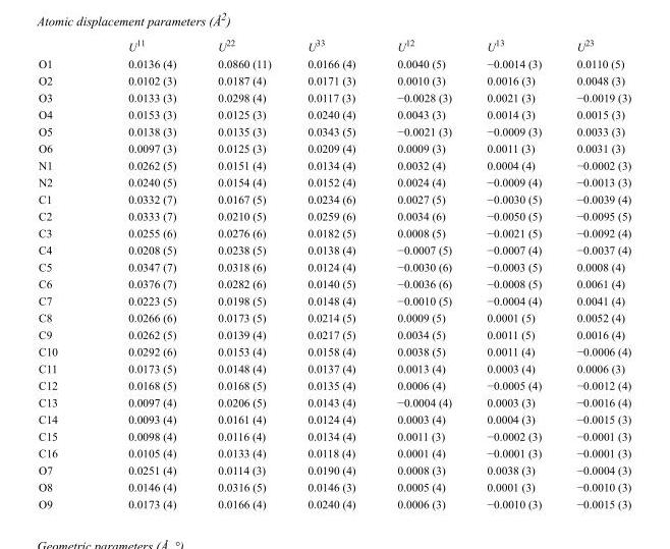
<table><thead><tr><td></td><td>U<sup>11</sup></td><td>U<sup>22</sup></td><td>U<sup>33</sup></td><td>U<sup>12</sup></td><td>U<sup>13</sup></td><td>U<sup>23</sup></td></tr></thead><tbody><tr><td>O1</td><td>0.0136 (4)</td><td>0.0860 (11)</td><td>0.0166 (4)</td><td>0.0040 (5)</td><td>−0.0014 (3)</td><td>0.0110 (5)</td></tr><tr><td>O2</td><td>0.0102 (3)</td><td>0.0187 (4)</td><td>0.0171 (3)</td><td>0.0010 (3)</td><td>0.0016 (3)</td><td>0.0048 (3)</td></tr><tr><td>O3</td><td>0.0133 (3)</td><td>0.0298 (4)</td><td>0.0117 (3)</td><td>−0.0028 (3)</td><td>0.0021 (3)</td><td>−0.0019 (3)</td></tr><tr><td>O4</td><td>0.0153 (3)</td><td>0.0125 (3)</td><td>0.0240 (4)</td><td>0.0043 (3)</td><td>0.0014 (3)</td><td>0.0015 (3)</td></tr><tr><td>O5</td><td>0.0138 (3)</td><td>0.0135 (3)</td><td>0.0343 (5)</td><td>−0.0021 (3)</td><td>−0.0009 (3)</td><td>0.0033 (3)</td></tr><tr><td>O6</td><td>0.0097 (3)</td><td>0.0125 (3)</td><td>0.0209 (4)</td><td>0.0009 (3)</td><td>0.0011 (3)</td><td>0.0031 (3)</td></tr><tr><td>N1</td><td>0.0262 (5)</td><td>0.0151 (4)</td><td>0.0134 (4)</td><td>0.0032 (4)</td><td>0.0004 (4)</td><td>−0.0002 (3)</td></tr><tr><td>N2</td><td>0.0240 (5)</td><td>0.0154 (4)</td><td>0.0152 (4)</td><td>0.0024 (4)</td><td>−0.0009 (4)</td><td>−0.0013 (3)</td></tr><tr><td>C1</td><td>0.0332 (7)</td><td>0.0167 (5)</td><td>0.0234 (6)</td><td>0.0027 (5)</td><td>−0.0030 (5)</td><td>−0.0039 (4)</td></tr><tr><td>C2</td><td>0.0333 (7)</td><td>0.0210 (5)</td><td>0.0259 (6)</td><td>0.0034 (6)</td><td>−0.0050 (5)</td><td>−0.0095 (5)</td></tr><tr><td>C3</td><td>0.0255 (6)</td><td>0.0276 (6)</td><td>0.0182 (5)</td><td>0.0008 (5)</td><td>−0.0021 (5)</td><td>−0.0092 (4)</td></tr><tr><td>C4</td><td>0.0208 (5)</td><td>0.0238 (5)</td><td>0.0138 (4)</td><td>−0.0007 (5)</td><td>−0.0007 (4)</td><td>−0.0037 (4)</td></tr><tr><td>C5</td><td>0.0347 (7)</td><td>0.0318 (6)</td><td>0.0124 (4)</td><td>−0.0030 (6)</td><td>−0.0003 (5)</td><td>0.0008 (4)</td></tr><tr><td>C6</td><td>0.0376 (7)</td><td>0.0282 (6)</td><td>0.0140 (5)</td><td>−0.0036 (6)</td><td>−0.0008 (5)</td><td>0.0061 (4)</td></tr><tr><td>C7</td><td>0.0223 (5)</td><td>0.0198 (5)</td><td>0.0148 (4)</td><td>−0.0010 (5)</td><td>−0.0004 (4)</td><td>0.0041 (4)</td></tr><tr><td>C8</td><td>0.0266 (6)</td><td>0.0173 (5)</td><td>0.0214 (5)</td><td>0.0009 (5)</td><td>0.0001 (5)</td><td>0.0052 (4)</td></tr><tr><td>C9</td><td>0.0262 (5)</td><td>0.0139 (4)</td><td>0.0217 (5)</td><td>0.0034 (5)</td><td>0.0011 (5)</td><td>0.0016 (4)</td></tr><tr><td>C10</td><td>0.0292 (6)</td><td>0.0153 (4)</td><td>0.0158 (4)</td><td>0.0038 (5)</td><td>0.0011 (4)</td><td>−0.0006 (4)</td></tr><tr><td>C11</td><td>0.0173 (5)</td><td>0.0148 (4)</td><td>0.0137 (4)</td><td>0.0013 (4)</td><td>0.0003 (4)</td><td>0.0006 (3)</td></tr><tr><td>C12</td><td>0.0168 (5)</td><td>0.0168 (5)</td><td>0.0135 (4)</td><td>0.0006 (4)</td><td>−0.0005 (4)</td><td>−0.0012 (4)</td></tr><tr><td>C13</td><td>0.0097 (4)</td><td>0.0206 (5)</td><td>0.0143 (4)</td><td>−0.0004 (4)</td><td>0.0003 (3)</td><td>−0.0016 (4)</td></tr><tr><td>C14</td><td>0.0093 (4)</td><td>0.0161 (4)</td><td>0.0124 (4)</td><td>0.0003 (4)</td><td>0.0004 (3)</td><td>−0.0015 (3)</td></tr><tr><td>C15</td><td>0.0098 (4)</td><td>0.0116 (4)</td><td>0.0134 (4)</td><td>0.0011 (3)</td><td>−0.0002 (3)</td><td>−0.0001 (3)</td></tr><tr><td>C16</td><td>0.0105 (4)</td><td>0.0133 (4)</td><td>0.0118 (4)</td><td>0.0001 (4)</td><td>−0.0001 (3)</td><td>−0.0001 (3)</td></tr><tr><td>O7</td><td>0.0251 (4)</td><td>0.0114 (3)</td><td>0.0190 (4)</td><td>0.0008 (3)</td><td>0.0038 (3)</td><td>−0.0004 (3)</td></tr><tr><td>O8</td><td>0.0146 (4)</td><td>0.0316 (5)</td><td>0.0146 (3)</td><td>0.0005 (4)</td><td>0.0001 (3)</td><td>−0.0010 (3)</td></tr><tr><td>O9</td><td>0.0173 (4)</td><td>0.0166 (4)</td><td>0.0240 (4)</td><td>0.0006 (3)</td><td>−0.0010 (3)</td><td>−0.0015 (3)</td></tr></tbody></table>